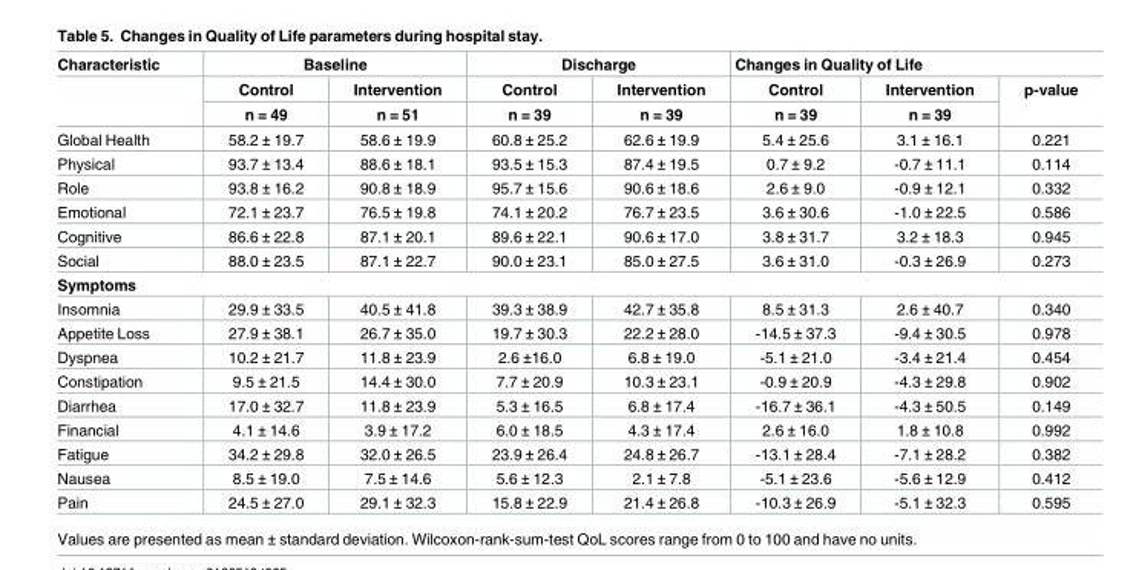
<table><thead><tr><td rowspan="3">Characteristic</td><td colspan="2">Baseline</td><td colspan="2">Discharge</td><td colspan="3">Changes in Quality of Life</td></tr><tr><td rowspan="2">Control n = 49</td><td rowspan="2">Intervention n = 51</td><td rowspan="2">Control n = 39</td><td rowspan="2">Intervention n = 39</td><td rowspan="2">Control n = 39</td><td rowspan="2">Intervention n = 39</td><td rowspan="2">p-value</td></tr><tr></tr></thead><tbody><tr><td>Global Health</td><td>58.2 ± 19.7</td><td>58.6 ± 19.9</td><td>60.8 ± 25.2</td><td>62.6 ± 19.9</td><td>5.4 ± 25.6</td><td>3.1 ± 16.1</td><td>0.221</td></tr><tr><td>Physical</td><td>93.7 ± 13.4</td><td>88.6 ± 18.1</td><td>93.5 ± 15.3</td><td>87.4 ± 19.5</td><td>0.7 ± 9.2</td><td>-0.7 ± 11.1</td><td>0.114</td></tr><tr><td>Role</td><td>93.8 ± 16.2</td><td>90.8 ± 18.9</td><td>95.7 ± 15.6</td><td>90.6 ± 18.6</td><td>2.6 ± 9.0</td><td>-0.9 ± 12.1</td><td>0.332</td></tr><tr><td>Emotional</td><td>72.1 ± 23.7</td><td>76.5 ± 19.8</td><td>74.1 ± 20.2</td><td>76.7 ± 23.5</td><td>3.6 ± 30.6</td><td>-1.0 ± 22.5</td><td>0.586</td></tr><tr><td>Cognitive</td><td>86.6 ± 22.8</td><td>87.1 ± 20.1</td><td>89.6 ± 22.1</td><td>90.6 ± 17.0</td><td>3.8 ± 31.7</td><td>3.2 ± 18.3</td><td>0.945</td></tr><tr><td>Social</td><td>88.0 ± 23.5</td><td>87.1 ± 22.7</td><td>90.0 ± 23.1</td><td>85.0 ± 27.5</td><td>3.6 ± 31.0</td><td>-0.3 ± 26.9</td><td>0.273</td></tr><tr><td colspan="8">Symptoms</td></tr><tr><td>Insomnia</td><td>29.9 ± 33.5</td><td>40.5 ± 41.8</td><td>39.3 ± 38.9</td><td>42.7 ± 35.8</td><td>8.5 ± 31.3</td><td>2.6 ± 40.7</td><td>0.340</td></tr><tr><td>Appetite Loss</td><td>27.9 ± 38.1</td><td>26.7 ± 35.0</td><td>19.7 ± 30.3</td><td>22.2 ± 28.0</td><td>-14.5 ± 37.3</td><td>-9.4 ± 30.5</td><td>0.978</td></tr><tr><td>Dyspnea</td><td>10.2 ± 21.7</td><td>11.8 ± 23.9</td><td>2.6 ±16.0</td><td>6.8 ± 19.0</td><td>-5.1 ± 21.0</td><td>-3.4 ± 21.4</td><td>0.454</td></tr><tr><td>Constipation</td><td>9.5 ± 21.5</td><td>14.4 ± 30.0</td><td>7.7 ± 20.9</td><td>10.3 ± 23.1</td><td>-0.9 ± 20.9</td><td>-4.3 ± 29.8</td><td>0.902</td></tr><tr><td>Diarrhea</td><td>17.0 ± 32.7</td><td>11.8 ± 23.9</td><td>5.3 ± 16.5</td><td>6.8 ± 17.4</td><td>-16.7 ± 36.1</td><td>-4.3 ± 50.5</td><td>0.149</td></tr><tr><td>Financial</td><td>4.1 ± 14.6</td><td>3.9 ± 17.2</td><td>6.0 ± 18.5</td><td>4.3 ± 17.4</td><td>2.6 ± 16.0</td><td>1.8 ± 10.8</td><td>0.992</td></tr><tr><td>Fatigue</td><td>34.2 ± 29.8</td><td>32.0 ± 26.5</td><td>23.9 ± 26.4</td><td>24.8 ± 26.7</td><td>-13.1 ± 28.4</td><td>-7.1 ± 28.2</td><td>0.382</td></tr><tr><td>Nausea</td><td>8.5 ± 19.0</td><td>7.5 ± 14.6</td><td>5.6 ± 12.3</td><td>2.1 ± 7.8</td><td>-5.1 ± 23.6</td><td>-5.6 ± 12.9</td><td>0.412</td></tr><tr><td>Pain</td><td>24.5 ± 27.0</td><td>29.1 ± 32.3</td><td>15.8 ± 22.9</td><td>21.4 ± 26.8</td><td>-10.3 ± 26.9</td><td>-5.1 ± 32.3</td><td>0.595</td></tr></tbody></table>